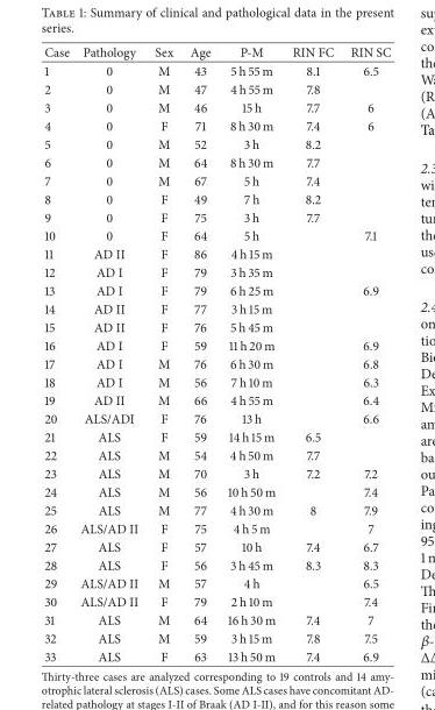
<table><thead><tr><td>Case</td><td>Pathology</td><td>Sex</td><td>Age</td><td>P-M</td><td>RIN FC</td><td>RIN SC</td></tr></thead><tbody><tr><td>1</td><td>0</td><td>M</td><td>43</td><td>5 h 55 m</td><td>8.1</td><td>6.5</td></tr><tr><td>2</td><td>0</td><td>M</td><td>47</td><td>4 h 55 m</td><td>7.8</td><td></td></tr><tr><td>3</td><td>0</td><td>M</td><td>46</td><td>15 h</td><td>7.7</td><td>6</td></tr><tr><td>4</td><td>0</td><td>F</td><td>71</td><td>8 h 30 m</td><td>7.4</td><td>6</td></tr><tr><td>5</td><td>0</td><td>M</td><td>52</td><td>3 h</td><td>8.2</td><td></td></tr><tr><td>6</td><td>0</td><td>M</td><td>64</td><td>8 h 30 m</td><td>7.7</td><td></td></tr><tr><td>7</td><td>0</td><td>M</td><td>67</td><td>5 h</td><td>7.4</td><td></td></tr><tr><td>8</td><td>0</td><td>F</td><td>49</td><td>7 h</td><td>8.2</td><td></td></tr><tr><td>9</td><td>0</td><td>F</td><td>75</td><td>3 h</td><td>7.7</td><td></td></tr><tr><td>10</td><td>0</td><td>F</td><td>64</td><td>5 h</td><td></td><td>7.1</td></tr><tr><td>11</td><td>AD II</td><td>F</td><td>86</td><td>4 h 15 m</td><td></td><td></td></tr><tr><td>12</td><td>AD I</td><td>F</td><td>79</td><td>3 h 35 m</td><td></td><td></td></tr><tr><td>13</td><td>AD I</td><td>F</td><td>79</td><td>6 h 25 m</td><td></td><td>6.9</td></tr><tr><td>14</td><td>AD II</td><td>F</td><td>77</td><td>3 h 15 m</td><td></td><td></td></tr><tr><td>15</td><td>AD II</td><td>F</td><td>76</td><td>5 h 45 m</td><td></td><td></td></tr><tr><td>16</td><td>AD I</td><td>F</td><td>59</td><td>11 h 20 m</td><td></td><td>6.9</td></tr><tr><td>17</td><td>AD I</td><td>M</td><td>76</td><td>6 h 30 m</td><td></td><td>6.8</td></tr><tr><td>18</td><td>AD I</td><td>M</td><td>56</td><td>7 h 10 m</td><td></td><td>6.3</td></tr><tr><td>19</td><td>AD II</td><td>M</td><td>66</td><td>4 h 55 m</td><td></td><td>6.4</td></tr><tr><td>20</td><td>ALS/ADI</td><td>F</td><td>76</td><td>13 h</td><td></td><td>6.6</td></tr><tr><td>21</td><td>ALS</td><td>F</td><td>59</td><td>14 h 15 m</td><td>6.5</td><td></td></tr><tr><td>22</td><td>ALS</td><td>M</td><td>54</td><td>4 h 50 m</td><td>7.7</td><td></td></tr><tr><td>23</td><td>ALS</td><td>M</td><td>70</td><td>3 h</td><td>7.2</td><td>7.2</td></tr><tr><td>24</td><td>ALS</td><td>M</td><td>56</td><td>10 h 50 m</td><td></td><td>7.4</td></tr><tr><td>25</td><td>ALS</td><td>M</td><td>77</td><td>4 h 30 m</td><td>8</td><td>7.9</td></tr><tr><td>26</td><td>ALS/AD II</td><td>F</td><td>75</td><td>4 h 5 m</td><td></td><td>7</td></tr><tr><td>27</td><td>ALS</td><td>F</td><td>57</td><td>10 h</td><td>7.4</td><td>6.7</td></tr><tr><td>28</td><td>ALS</td><td>F</td><td>56</td><td>3 h 45 m</td><td>8.3</td><td>8.3</td></tr><tr><td>29</td><td>ALS/AD II</td><td>M</td><td>57</td><td>4 h</td><td></td><td>6.5</td></tr><tr><td>30</td><td>ALS/AD II</td><td>F</td><td>79</td><td>2 h 10 m</td><td></td><td>7.4</td></tr><tr><td>31</td><td>ALS</td><td>M</td><td>64</td><td>16 h 30 m</td><td>7.4</td><td>7</td></tr><tr><td>32</td><td>ALS</td><td>M</td><td>59</td><td>3 h 15 m</td><td>7.8</td><td>7.5</td></tr><tr><td>33</td><td>ALS</td><td>F</td><td>63</td><td>13 h 50 m</td><td>7.4</td><td>6.9</td></tr></tbody></table>